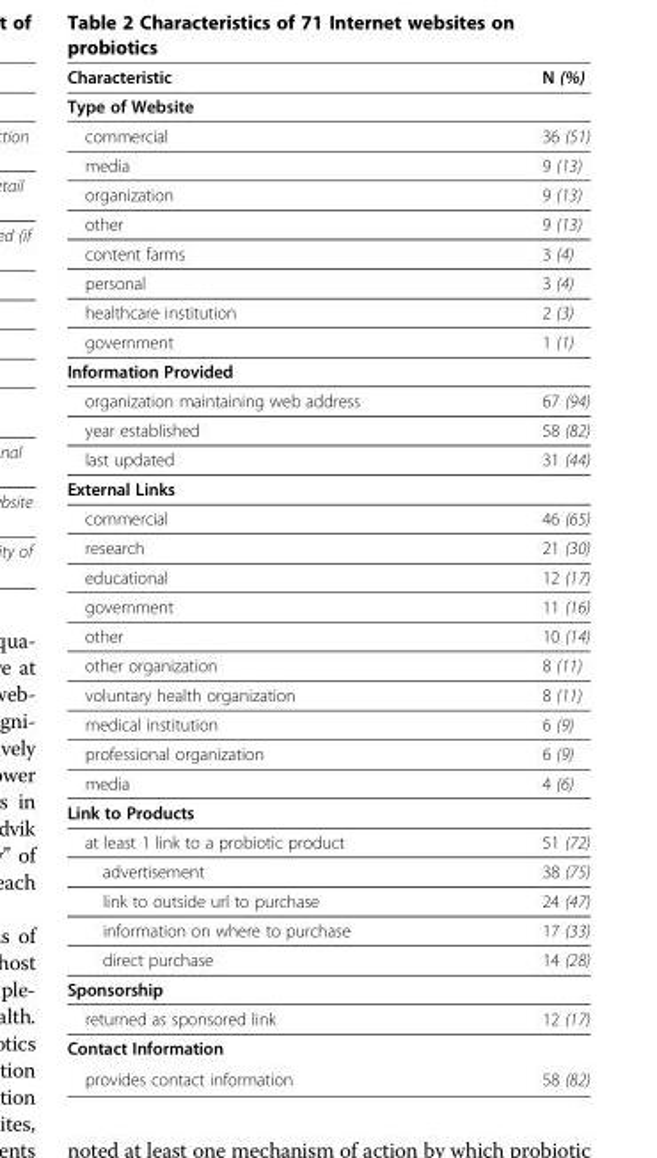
<table><thead><tr><td>Characteristic</td><td>N (%)</td></tr></thead><tbody><tr><td colspan="2">Type of Website</td></tr><tr><td>commercial</td><td>36 (51)</td></tr><tr><td>media</td><td>9 (13)</td></tr><tr><td>organization</td><td>9 (13)</td></tr><tr><td>other</td><td>9 (13)</td></tr><tr><td>content farms</td><td>3 (4)</td></tr><tr><td>personal</td><td>3 (4)</td></tr><tr><td>healthcare institution</td><td>2 (3)</td></tr><tr><td>government</td><td>1 (1)</td></tr><tr><td colspan="2">Information Provided</td></tr><tr><td>organization maintaining web address</td><td>67 (94)</td></tr><tr><td>year established</td><td>58 (82)</td></tr><tr><td>last updated</td><td>31 (44)</td></tr><tr><td colspan="2">External Links</td></tr><tr><td>commercial</td><td>46 (65)</td></tr><tr><td>research</td><td>21 (30)</td></tr><tr><td>educational</td><td>12 (17)</td></tr><tr><td>government</td><td>11 (16)</td></tr><tr><td>other</td><td>10 (14)</td></tr><tr><td>other organization</td><td>8 (11)</td></tr><tr><td>voluntary health organization</td><td>8 (11)</td></tr><tr><td>medical institution</td><td>6 (9)</td></tr><tr><td>professional organization</td><td>6 (9)</td></tr><tr><td>media</td><td>4 (6)</td></tr><tr><td colspan="2">Link to Products</td></tr><tr><td>at least 1 link to a probiotic product</td><td>51 (72)</td></tr><tr><td>advertisement</td><td>38 (75)</td></tr><tr><td>link to outside url to purchase</td><td>24 (47)</td></tr><tr><td>information on where to purchase</td><td>17 (33)</td></tr><tr><td>direct purchase</td><td>14 (28)</td></tr><tr><td colspan="2">Sponsorship</td></tr><tr><td>returned as sponsored link</td><td>12 (17)</td></tr><tr><td colspan="2">Contact Information</td></tr><tr><td>provides contact information</td><td>58 (82)</td></tr></tbody></table>